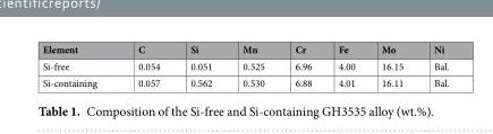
<table><thead><tr><td>Element</td><td>C</td><td>Si</td><td>Mn</td><td>Cr</td><td>Fe</td><td>Mo</td><td>Ni</td></tr></thead><tbody><tr><td>Si-free</td><td>0.054</td><td>0.051</td><td>0.525</td><td>6.96</td><td>4.00</td><td>16.15</td><td>Bal.</td></tr><tr><td>Si-containing</td><td>0.057</td><td>0.562</td><td>0.530</td><td>6.88</td><td>4.01</td><td>16.11</td><td>Bal.</td></tr></tbody></table>